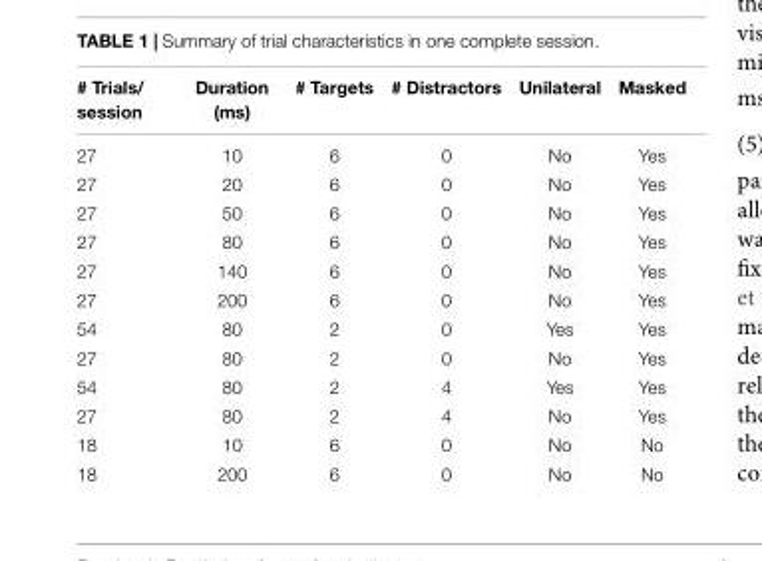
<table><thead><tr><td># Trials/ session</td><td>Duration (ms)</td><td># Targets</td><td># Distractors</td><td>Unilateral</td><td>Masked</td></tr></thead><tbody><tr><td>27</td><td>10</td><td>6</td><td>0</td><td>No</td><td>Yes</td></tr><tr><td>27</td><td>20</td><td>6</td><td>0</td><td>No</td><td>Yes</td></tr><tr><td>27</td><td>50</td><td>6</td><td>0</td><td>No</td><td>Yes</td></tr><tr><td>27</td><td>80</td><td>6</td><td>0</td><td>No</td><td>Yes</td></tr><tr><td>27</td><td>140</td><td>6</td><td>0</td><td>No</td><td>Yes</td></tr><tr><td>27</td><td>200</td><td>6</td><td>0</td><td>No</td><td>Yes</td></tr><tr><td>54</td><td>80</td><td>2</td><td>0</td><td>Yes</td><td>Yes</td></tr><tr><td>27</td><td>80</td><td>2</td><td>0</td><td>No</td><td>Yes</td></tr><tr><td>54</td><td>80</td><td>2</td><td>4</td><td>Yes</td><td>Yes</td></tr><tr><td>27</td><td>80</td><td>2</td><td>4</td><td>No</td><td>Yes</td></tr><tr><td>18</td><td>10</td><td>6</td><td>0</td><td>No</td><td>No</td></tr><tr><td>18</td><td>200</td><td>6</td><td>0</td><td>No</td><td>No</td></tr></tbody></table>